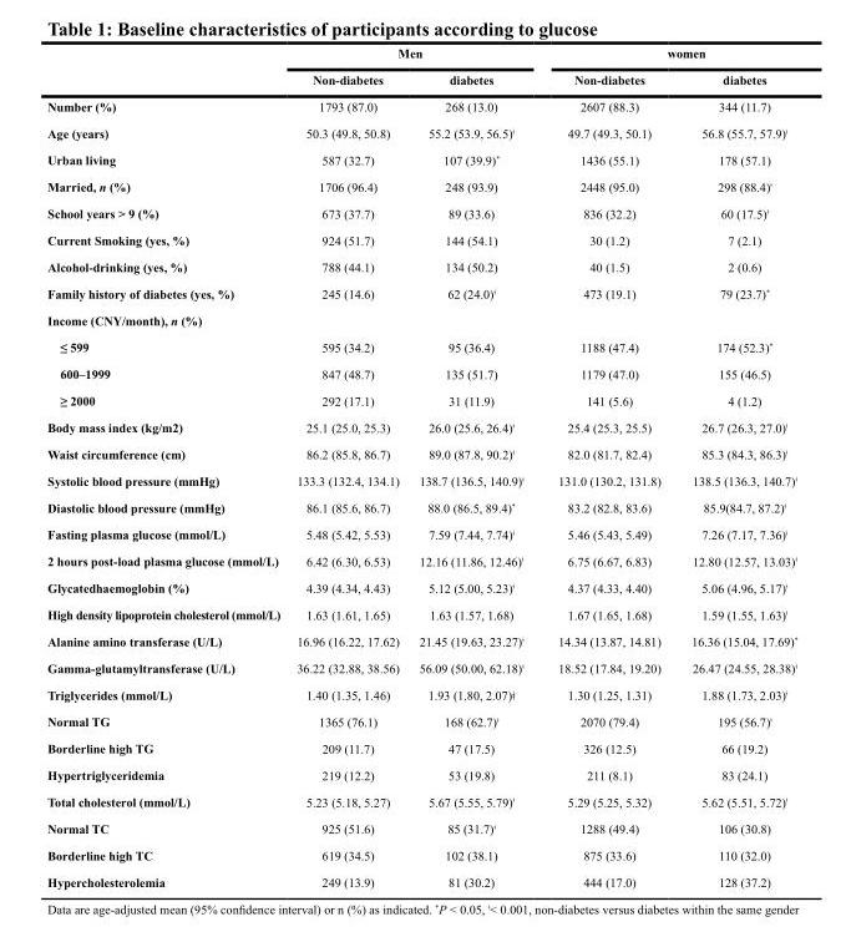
<table><thead><tr><td rowspan="2"></td><td colspan="2">Men</td><td colspan="2">women</td></tr><tr><td>Non-diabetes</td><td>diabetes</td><td>Non-diabetes</td><td>diabetes</td></tr></thead><tbody><tr><td>Number (%)</td><td>1793 (87.0)</td><td>268 (13.0)</td><td>2607 (88.3)</td><td>344 (11.7)</td></tr><tr><td>Age (years)</td><td>50.3 (49.8, 50.8)</td><td>55.2 (53.9, 56.5)<sup>ǂ</sup></td><td>49.7 (49.3, 50.1)</td><td>56.8 (55.7, 57.9)<sup>ǂ</sup></td></tr><tr><td>Urban living</td><td>587 (32.7)</td><td>107 (39.9)*</td><td>1436 (55.1)</td><td>178 (57.1)</td></tr><tr><td>Married, n (%)</td><td>1706 (96.4)</td><td>248 (93.9)</td><td>2448 (95.0)</td><td>298 (88.4)<sup>ǂ</sup></td></tr><tr><td>School years &gt; 9 (%)</td><td>673 (37.7)</td><td>89 (33.6)</td><td>836 (32.2)</td><td>60 (17.5)<sup>ǂ</sup></td></tr><tr><td>Current Smoking (yes, %)</td><td>924 (51.7)</td><td>144 (54.1)</td><td>30 (1.2)</td><td>7 (2.1)</td></tr><tr><td>Alcohol-drinking (yes, %)</td><td>788 (44.1)</td><td>134 (50.2)</td><td>40 (1.5)</td><td>2 (0.6)</td></tr><tr><td>Family history of diabetes (yes, %)</td><td>245 (14.6)</td><td>62 (24.0)<sup>ǂ</sup></td><td>473 (19.1)</td><td>79 (23.7)*</td></tr><tr><td colspan="5">Income (CNY/month), n (%)</td></tr><tr><td>≤ 599</td><td>595 (34.2)</td><td>95 (36.4)</td><td>1188 (47.4)</td><td>174 (52.3)*</td></tr><tr><td>600–1999</td><td>847 (48.7)</td><td>135 (51.7)</td><td>1179 (47.0)</td><td>155 (46.5)</td></tr><tr><td>≥ 2000</td><td>292 (17.1)</td><td>31 (11.9)</td><td>141 (5.6)</td><td>4 (1.2)</td></tr><tr><td>Body mass index (kg/m2)</td><td>25.1 (25.0, 25.3)</td><td>26.0 (25.6, 26.4)<sup>ǂ</sup></td><td>25.4 (25.3, 25.5)</td><td>26.7 (26.3, 27.0)<sup>ǂ</sup></td></tr><tr><td>Waist circumference (cm)</td><td>86.2 (85.8, 86.7)</td><td>89.0 (87.8, 90.2)<sup>ǂ</sup></td><td>82.0 (81.7, 82.4)</td><td>85.3 (84.3, 86.3)<sup>ǂ</sup></td></tr><tr><td>Systolic blood pressure (mmHg)</td><td>133.3 (132.4, 134.1)</td><td>138.7 (136.5, 140.9)<sup>ǂ</sup></td><td>131.0 (130.2, 131.8)</td><td>138.5 (136.3, 140.7)<sup>ǂ</sup></td></tr><tr><td>Diastolic blood pressure (mmHg)</td><td>86.1 (85.6, 86.7)</td><td>88.0 (86.5, 89.4)*</td><td>83.2 (82.8, 83.6)</td><td>85.9(84.7, 87.2)<sup>ǂ</sup></td></tr><tr><td>Fasting plasma glucose (mmol/L)</td><td>5.48 (5.42, 5.53)</td><td>7.59 (7.44, 7.74)<sup>ǂ</sup></td><td>5.46 (5.43, 5.49)</td><td>7.26 (7.17, 7.36)<sup>ǂ</sup></td></tr><tr><td>2 hours post-load plasma glucose (mmol/L)</td><td>6.42 (6.30, 6.53)</td><td>12.16 (11.86, 12.46)<sup>ǂ</sup></td><td>6.75 (6.67, 6.83)</td><td>12.80 (12.57, 13.03)<sup>ǂ</sup></td></tr><tr><td>Glycatedhaemoglobin (%)</td><td>4.39 (4.34, 4.43)</td><td>5.12 (5.00, 5.23)<sup>ǂ</sup></td><td>4.37 (4.33, 4.40)</td><td>5.06 (4.96, 5.17)<sup>ǂ</sup></td></tr><tr><td>High density lipoprotein cholesterol (mmol/L)</td><td>1.63 (1.61, 1.65)</td><td>1.63 (1.57, 1.68)</td><td>1.67 (1.65, 1.68)</td><td>1.59 (1.55, 1.63)<sup>ǂ</sup></td></tr><tr><td>Alanine amino transferase (U/L)</td><td>16.96 (16.22, 17.62)</td><td>21.45 (19.63, 23.27)<sup>ǂ</sup></td><td>14.34 (13.87, 14.81)</td><td>16.36 (15.04, 17.69)*</td></tr><tr><td>Gamma-glutamyltransferase (U/L)</td><td>36.22 (32.88, 38.56)</td><td>56.09 (50.00, 62.18)<sup>ǂ</sup></td><td>18.52 (17.84, 19.20)</td><td>26.47 (24.55, 28.38)<sup>ǂ</sup></td></tr><tr><td>Triglycerides (mmol/L)</td><td>1.40 (1.35, 1.46)</td><td>1.93 (1.80, 2.07)ǂ</td><td>1.30 (1.25, 1.31)</td><td>1.88 (1.73, 2.03)<sup>ǂ</sup></td></tr><tr><td>Normal TG</td><td>1365 (76.1)</td><td>168 (62.7)<sup>ǂ</sup></td><td>2070 (79.4)</td><td>195 (56.7)<sup>ǂ</sup></td></tr><tr><td>Borderline high TG</td><td>209 (11.7)</td><td>47 (17.5)</td><td>326 (12.5)</td><td>66 (19.2)</td></tr><tr><td>Hypertriglyceridemia</td><td>219 (12.2)</td><td>53 (19.8)</td><td>211 (8.1)</td><td>83 (24.1)</td></tr><tr><td>Total cholesterol (mmol/L)</td><td>5.23 (5.18, 5.27)</td><td>5.67 (5.55, 5.79)<sup>ǂ</sup></td><td>5.29 (5.25, 5.32)</td><td>5.62 (5.51, 5.72)<sup>ǂ</sup></td></tr><tr><td>Normal TC</td><td>925 (51.6)</td><td>85 (31.7)<sup>ǂ</sup></td><td>1288 (49.4)</td><td>106 (30.8)</td></tr><tr><td>Borderline high TC</td><td>619 (34.5)</td><td>102 (38.1)</td><td>875 (33.6)</td><td>110 (32.0)</td></tr><tr><td>Hypercholesterolemia</td><td>249 (13.9)</td><td>81 (30.2)</td><td>444 (17.0)</td><td>128 (37.2)</td></tr></tbody></table>